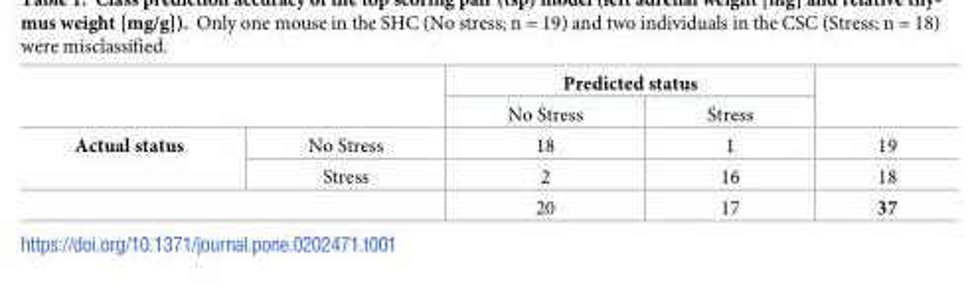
<table><thead><tr><td rowspan="2"></td><td rowspan="2"></td><td colspan="2">Predicted status</td><td rowspan="2"></td></tr><tr><td>No Stress</td><td>Stress</td></tr></thead><tbody><tr><td rowspan="2">Actual status</td><td>No Stress</td><td>18</td><td>1</td><td>19</td></tr><tr><td>Stress</td><td>2</td><td>16</td><td>18</td></tr><tr><td colspan="2"></td><td>20</td><td>17</td><td>37</td></tr></tbody></table>